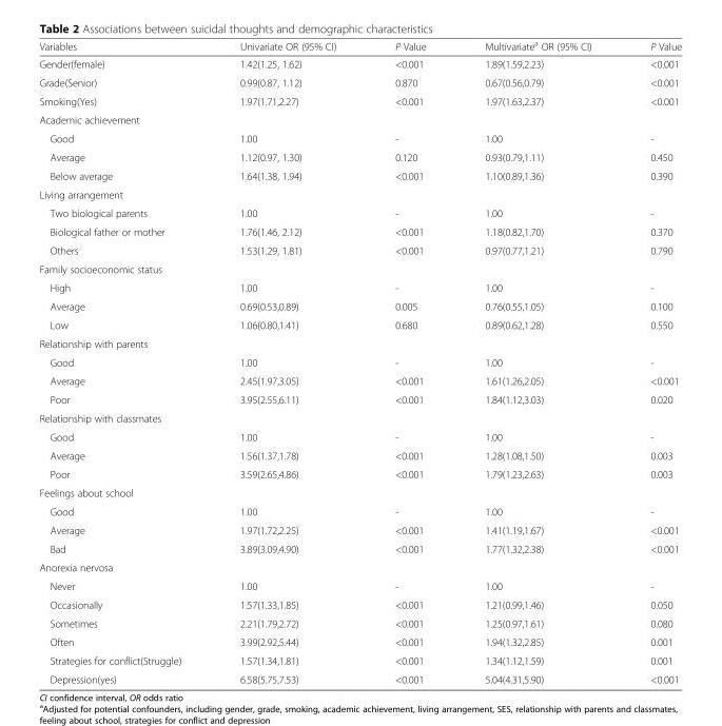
<table><thead><tr><td>Variables</td><td>Univariate OR (95% CI)</td><td>P Value</td><td>Multivariate<sup>a</sup> OR (95% CI)</td><td>P Value</td></tr></thead><tbody><tr><td>Gender(female)</td><td>1.42(1.25, 1.62)</td><td>&lt;0.001</td><td>1.89(1.59,2.23)</td><td>&lt;0.001</td></tr><tr><td>Grade(Senior)</td><td>0.99(0.87, 1.12)</td><td>0.870</td><td>0.67(0.56,0.79)</td><td>&lt;0.001</td></tr><tr><td>Smoking(Yes)</td><td>1.97(1.71,2.27)</td><td>&lt;0.001</td><td>1.97(1.63,2.37)</td><td>&lt;0.001</td></tr><tr><td colspan="5">Academic achievement</td></tr><tr><td>Good</td><td>1.00</td><td>-</td><td>1.00</td><td>-</td></tr><tr><td>Average</td><td>1.12(0.97, 1.30)</td><td>0.120</td><td>0.93(0.79,1.11)</td><td>0.450</td></tr><tr><td>Below average</td><td>1.64(1.38, 1.94)</td><td>&lt;0.001</td><td>1.10(0.89,1.36)</td><td>0.390</td></tr><tr><td colspan="5">Living arrangement</td></tr><tr><td>Two biological parents</td><td>1.00</td><td>-</td><td>1.00</td><td>-</td></tr><tr><td>Biological father or mother</td><td>1.76(1.46, 2.12)</td><td>&lt;0.001</td><td>1.18(0.82,1.70)</td><td>0.370</td></tr><tr><td>Others</td><td>1.53(1.29, 1.81)</td><td>&lt;0.001</td><td>0.97(0.77,1.21)</td><td>0.790</td></tr><tr><td colspan="5">Family socioeconomic status</td></tr><tr><td>High</td><td>1.00</td><td>-</td><td>1.00</td><td>-</td></tr><tr><td>Average</td><td>0.69(0.53,0.89)</td><td>0.005</td><td>0.76(0.55,1.05)</td><td>0.100</td></tr><tr><td>Low</td><td>1.06(0.80,1.41)</td><td>0.680</td><td>0.89(0.62,1.28)</td><td>0.550</td></tr><tr><td colspan="5">Relationship with parents</td></tr><tr><td>Good</td><td>1.00</td><td>-</td><td>1.00</td><td>-</td></tr><tr><td>Average</td><td>2.45(1.97,3.05)</td><td>&lt;0.001</td><td>1.61(1.26,2.05)</td><td>&lt;0.001</td></tr><tr><td>Poor</td><td>3.95(2.55,6.11)</td><td>&lt;0.001</td><td>1.84(1.12,3.03)</td><td>0.020</td></tr><tr><td colspan="5">Relationship with classmates</td></tr><tr><td>Good</td><td>1.00</td><td>-</td><td>1.00</td><td>-</td></tr><tr><td>Average</td><td>1.56(1.37,1.78)</td><td>&lt;0.001</td><td>1.28(1.08,1.50)</td><td>0.003</td></tr><tr><td>Poor</td><td>3.59(2.65,4.86)</td><td>&lt;0.001</td><td>1.79(1.23,2.63)</td><td>0.003</td></tr><tr><td colspan="5">Feelings about school</td></tr><tr><td>Good</td><td>1.00</td><td>-</td><td>1.00</td><td>-</td></tr><tr><td>Average</td><td>1.97(1.72,2.25)</td><td>&lt;0.001</td><td>1.41(1.19,1.67)</td><td>&lt;0.001</td></tr><tr><td>Bad</td><td>3.89(3.09,4.90)</td><td>&lt;0.001</td><td>1.77(1.32,2.38)</td><td>&lt;0.001</td></tr><tr><td colspan="5">Anorexia nervosa</td></tr><tr><td>Never</td><td>1.00</td><td>-</td><td>1.00</td><td>-</td></tr><tr><td>Occasionally</td><td>1.57(1.33,1.85)</td><td>&lt;0.001</td><td>1.21(0.99,1.46)</td><td>0.050</td></tr><tr><td>Sometimes</td><td>2.21(1.79,2.72)</td><td>&lt;0.001</td><td>1.25(0.97,1.61)</td><td>0.080</td></tr><tr><td>Often</td><td>3.99(2.92,5.44)</td><td>&lt;0.001</td><td>1.94(1.32,2.85)</td><td>0.001</td></tr><tr><td>Strategies for conflict(Struggle)</td><td>1.57(1.34,1.81)</td><td>&lt;0.001</td><td>1.34(1.12,1.59)</td><td>0.001</td></tr><tr><td>Depression(yes)</td><td>6.58(5.75,7.53)</td><td>&lt;0.001</td><td>5.04(4.31,5.90)</td><td>&lt;0.001</td></tr></tbody></table>